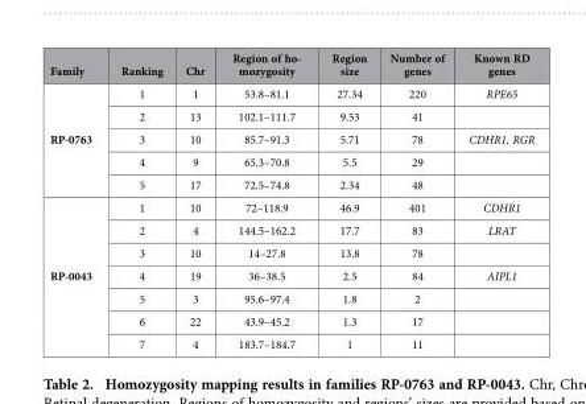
<table><thead><tr><td>Family</td><td>Ranking</td><td>Chr</td><td>Region of ho- mozygosity</td><td>Region size</td><td>Number of genes</td><td>Known RD genes</td></tr></thead><tbody><tr><td rowspan="5">RP-0763</td><td>1</td><td>1</td><td>53.8–81.1</td><td>27.34</td><td>220</td><td>RPE65</td></tr><tr><td>2</td><td>13</td><td>102.1–111.7</td><td>9.53</td><td>41</td><td></td></tr><tr><td>3</td><td>10</td><td>85.7–91.3</td><td>5.71</td><td>78</td><td>CDHR1, RGR</td></tr><tr><td>4</td><td>9</td><td>65.3–70.8</td><td>5.5</td><td>29</td><td></td></tr><tr><td>5</td><td>17</td><td>72.5–74.8</td><td>2.34</td><td>48</td><td></td></tr><tr><td rowspan="7">RP-0043</td><td>1</td><td>10</td><td>72–118.9</td><td>46.9</td><td>401</td><td>CDHR1</td></tr><tr><td>2</td><td>4</td><td>144.5–162.2</td><td>17.7</td><td>83</td><td>LRAT</td></tr><tr><td>3</td><td>10</td><td>14–27.8</td><td>13.8</td><td>78</td><td></td></tr><tr><td>4</td><td>19</td><td>36–38.5</td><td>2.5</td><td>84</td><td>AIPL1</td></tr><tr><td>5</td><td>3</td><td>95.6–97.4</td><td>1.8</td><td>2</td><td></td></tr><tr><td>6</td><td>22</td><td>43.9–45.2</td><td>1.3</td><td>17</td><td></td></tr><tr><td>7</td><td>4</td><td>183.7–184.7</td><td>1</td><td>11</td><td></td></tr></tbody></table>